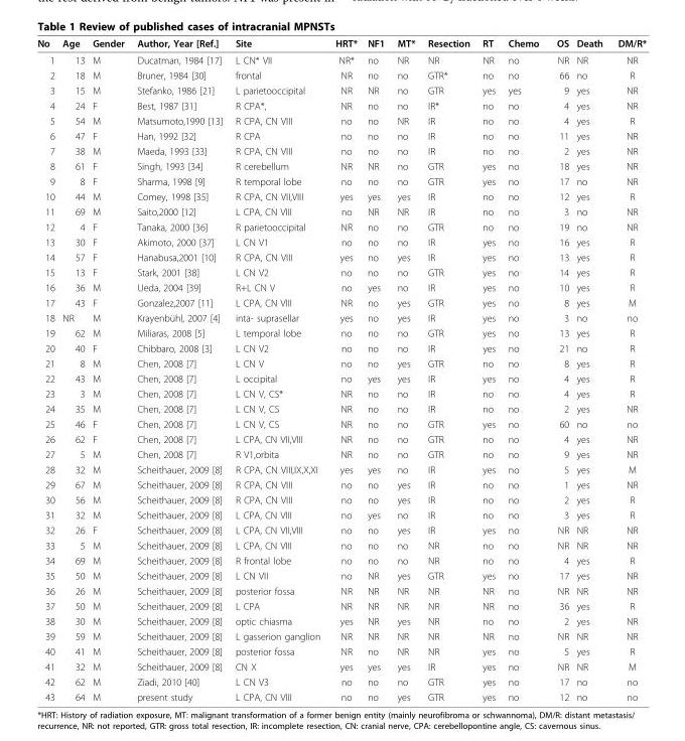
<table><thead><tr><td>No</td><td>Age</td><td>Gender</td><td>Author, Year [Ref.]</td><td>Site</td><td>HRT*</td><td>NF1</td><td>MT*</td><td>Resection</td><td>RT</td><td>Chemo</td><td>OS</td><td>Death</td><td>DM/R*</td></tr></thead><tbody><tr><td>1</td><td>13</td><td>M</td><td>Ducatman, 1984 [17]</td><td>L CN* VII</td><td>NR*</td><td>no</td><td>NR</td><td>NR</td><td>NR</td><td>no</td><td>NR</td><td>NR</td><td>NR</td></tr><tr><td>2</td><td>18</td><td>M</td><td>Bruner, 1984 [30]</td><td>frontal</td><td>NR</td><td>no</td><td>no</td><td>GTR*</td><td>no</td><td>no</td><td>66</td><td>no</td><td>R</td></tr><tr><td>3</td><td>15</td><td>M</td><td>Stefanko, 1986 [21]</td><td>L parietooccipital</td><td>NR</td><td>NR</td><td>no</td><td>GTR</td><td>yes</td><td>yes</td><td>9</td><td>yes</td><td>NR</td></tr><tr><td>4</td><td>24</td><td>F</td><td>Best, 1987 [31]</td><td>R CPA*,</td><td>NR</td><td>no</td><td>no</td><td>IR*</td><td>no</td><td>no</td><td>4</td><td>yes</td><td>NR</td></tr><tr><td>5</td><td>54</td><td>M</td><td>Matsumoto,1990 [13]</td><td>R CPA, CN VIII</td><td>no</td><td>no</td><td>NR</td><td>IR</td><td>no</td><td>no</td><td>4</td><td>yes</td><td>R</td></tr><tr><td>6</td><td>47</td><td>F</td><td>Han, 1992 [32]</td><td>R CPA</td><td>no</td><td>no</td><td>no</td><td>IR</td><td>no</td><td>no</td><td>11</td><td>yes</td><td>NR</td></tr><tr><td>7</td><td>38</td><td>M</td><td>Maeda, 1993 [33]</td><td>R CPA, CN VIII</td><td>no</td><td>no</td><td>no</td><td>IR</td><td>no</td><td>no</td><td>2</td><td>yes</td><td>NR</td></tr><tr><td>8</td><td>61</td><td>F</td><td>Singh, 1993 [34]</td><td>R cerebellum</td><td>NR</td><td>NR</td><td>no</td><td>GTR</td><td>yes</td><td>no</td><td>18</td><td>yes</td><td>NR</td></tr><tr><td>9</td><td>8</td><td>F</td><td>Sharma, 1998 [9]</td><td>R temporal lobe</td><td>no</td><td>no</td><td>no</td><td>GTR</td><td>yes</td><td>no</td><td>17</td><td>no</td><td>NR</td></tr><tr><td>10</td><td>44</td><td>M</td><td>Comey, 1998 [35]</td><td>R CPA, CN VII,VIII</td><td>yes</td><td>yes</td><td>yes</td><td>IR</td><td>no</td><td>no</td><td>12</td><td>yes</td><td>R</td></tr><tr><td>11</td><td>69</td><td>M</td><td>Saito,2000 [12]</td><td>L CPA, CN VIII</td><td>no</td><td>NR</td><td>NR</td><td>IR</td><td>no</td><td>no</td><td>3</td><td>no</td><td>NR</td></tr><tr><td>12</td><td>4</td><td>F</td><td>Tanaka, 2000 [36]</td><td>R parietooccipital</td><td>NR</td><td>no</td><td>no</td><td>GTR</td><td>no</td><td>no</td><td>19</td><td>no</td><td>NR</td></tr><tr><td>13</td><td>30</td><td>F</td><td>Akimoto, 2000 [37]</td><td>L CN V1</td><td>no</td><td>no</td><td>no</td><td>IR</td><td>yes</td><td>no</td><td>16</td><td>yes</td><td>R</td></tr><tr><td>14</td><td>57</td><td>F</td><td>Hanabusa,2001 [10]</td><td>R CPA, CN VIII</td><td>yes</td><td>no</td><td>yes</td><td>IR</td><td>yes</td><td>no</td><td>13</td><td>yes</td><td>R</td></tr><tr><td>15</td><td>13</td><td>F</td><td>Stark, 2001 [38]</td><td>L CN V2</td><td>no</td><td>no</td><td>no</td><td>GTR</td><td>yes</td><td>no</td><td>14</td><td>yes</td><td>R</td></tr><tr><td>16</td><td>36</td><td>M</td><td>Ueda, 2004 [39]</td><td>R+L CN V</td><td>no</td><td>yes</td><td>no</td><td>IR</td><td>yes</td><td>no</td><td>10</td><td>yes</td><td>R</td></tr><tr><td>17</td><td>43</td><td>F</td><td>Gonzalez,2007 [11]</td><td>L CPA, CN VIII</td><td>NR</td><td>no</td><td>yes</td><td>GTR</td><td>yes</td><td>no</td><td>8</td><td>yes</td><td>M</td></tr><tr><td>18</td><td>NR</td><td>M</td><td>Krayenbühl, 2007 [4]</td><td>inta- suprasellar</td><td>yes</td><td>no</td><td>yes</td><td>IR</td><td>yes</td><td>no</td><td>3</td><td>no</td><td>no</td></tr><tr><td>19</td><td>62</td><td>M</td><td>Miliaras, 2008 [5]</td><td>L temporal lobe</td><td>no</td><td>no</td><td>no</td><td>GTR</td><td>yes</td><td>no</td><td>13</td><td>yes</td><td>R</td></tr><tr><td>20</td><td>40</td><td>F</td><td>Chibbaro, 2008 [3]</td><td>L CN V2</td><td>no</td><td>no</td><td>no</td><td>IR</td><td>yes</td><td>no</td><td>21</td><td>no</td><td>R</td></tr><tr><td>21</td><td>8</td><td>M</td><td>Chen, 2008 [7]</td><td>L CN V</td><td>no</td><td>no</td><td>yes</td><td>GTR</td><td>no</td><td>no</td><td>8</td><td>yes</td><td>R</td></tr><tr><td>22</td><td>43</td><td>M</td><td>Chen, 2008 [7]</td><td>L occipital</td><td>no</td><td>yes</td><td>yes</td><td>IR</td><td>yes</td><td>no</td><td>4</td><td>yes</td><td>R</td></tr><tr><td>23</td><td>3</td><td>M</td><td>Chen, 2008 [7]</td><td>L CN V, CS*</td><td>NR</td><td>no</td><td>no</td><td>IR</td><td>no</td><td>no</td><td>4</td><td>yes</td><td>R</td></tr><tr><td>24</td><td>35</td><td>M</td><td>Chen, 2008 [7]</td><td>L CN V, CS</td><td>NR</td><td>no</td><td>no</td><td>IR</td><td>no</td><td>no</td><td>2</td><td>yes</td><td>NR</td></tr><tr><td>25</td><td>46</td><td>F</td><td>Chen, 2008 [7]</td><td>L CN V, CS</td><td>NR</td><td>no</td><td>no</td><td>GTR</td><td>yes</td><td>no</td><td>60</td><td>no</td><td>no</td></tr><tr><td>26</td><td>62</td><td>F</td><td>Chen, 2008 [7]</td><td>L CPA, CN VII,VIII</td><td>NR</td><td>no</td><td>no</td><td>GTR</td><td>no</td><td>no</td><td>4</td><td>yes</td><td>NR</td></tr><tr><td>27</td><td>5</td><td>M</td><td>Chen, 2008 [7]</td><td>R V1,orbita</td><td>NR</td><td>no</td><td>no</td><td>GTR</td><td>no</td><td>no</td><td>9</td><td>yes</td><td>NR</td></tr><tr><td>28</td><td>32</td><td>M</td><td>Scheithauer, 2009 [8]</td><td>R CPA, CN VIII,IX,X,XI</td><td>yes</td><td>yes</td><td>no</td><td>IR</td><td>yes</td><td>no</td><td>5</td><td>yes</td><td>M</td></tr><tr><td>29</td><td>67</td><td>M</td><td>Scheithauer, 2009 [8]</td><td>R CPA, CN VIII</td><td>no</td><td>no</td><td>yes</td><td>IR</td><td>no</td><td>no</td><td>1</td><td>yes</td><td>NR</td></tr><tr><td>30</td><td>56</td><td>M</td><td>Scheithauer, 2009 [8]</td><td>R CPA, CN VIII</td><td>no</td><td>no</td><td>yes</td><td>IR</td><td>no</td><td>no</td><td>2</td><td>yes</td><td>R</td></tr><tr><td>31</td><td>32</td><td>M</td><td>Scheithauer, 2009 [8]</td><td>L CPA, CN VIII</td><td>no</td><td>yes</td><td>no</td><td>IR</td><td>no</td><td>no</td><td>3</td><td>yes</td><td>R</td></tr><tr><td>32</td><td>26</td><td>F</td><td>Scheithauer, 2009 [8]</td><td>L CPA, CN VII,VIII</td><td>no</td><td>no</td><td>yes</td><td>IR</td><td>yes</td><td>no</td><td>NR</td><td>NR</td><td>NR</td></tr><tr><td>33</td><td>5</td><td>M</td><td>Scheithauer, 2009 [8]</td><td>L CPA, CN VIII</td><td>no</td><td>no</td><td>no</td><td>NR</td><td>no</td><td>no</td><td>NR</td><td>NR</td><td>NR</td></tr><tr><td>34</td><td>69</td><td>M</td><td>Scheithauer, 2009 [8]</td><td>R frontal lobe</td><td>no</td><td>no</td><td>no</td><td>NR</td><td>no</td><td>no</td><td>4</td><td>yes</td><td>R</td></tr><tr><td>35</td><td>50</td><td>M</td><td>Scheithauer, 2009 [8]</td><td>L CN VII</td><td>no</td><td>NR</td><td>yes</td><td>GTR</td><td>yes</td><td>no</td><td>17</td><td>yes</td><td>NR</td></tr><tr><td>36</td><td>26</td><td>M</td><td>Scheithauer, 2009 [8]</td><td>posterior fossa</td><td>NR</td><td>NR</td><td>NR</td><td>NR</td><td>NR</td><td>no</td><td>NR</td><td>NR</td><td>NR</td></tr><tr><td>37</td><td>50</td><td>M</td><td>Scheithauer, 2009 [8]</td><td>L CPA</td><td>NR</td><td>NR</td><td>NR</td><td>NR</td><td>NR</td><td>no</td><td>36</td><td>yes</td><td>R</td></tr><tr><td>38</td><td>30</td><td>M</td><td>Scheithauer, 2009 [8]</td><td>optic chiasma</td><td>yes</td><td>NR</td><td>yes</td><td>NR</td><td>no</td><td>no</td><td>2</td><td>yes</td><td>NR</td></tr><tr><td>39</td><td>59</td><td>M</td><td>Scheithauer, 2009 [8]</td><td>L gasserion ganglion</td><td>NR</td><td>NR</td><td>NR</td><td>NR</td><td>NR</td><td>no</td><td>NR</td><td>NR</td><td>NR</td></tr><tr><td>40</td><td>41</td><td>M</td><td>Scheithauer, 2009 [8]</td><td>posterior fossa</td><td>NR</td><td>no</td><td>NR</td><td>NR</td><td>yes</td><td>no</td><td>5</td><td>yes</td><td>R</td></tr><tr><td>41</td><td>32</td><td>M</td><td>Scheithauer, 2009 [8]</td><td>CN X</td><td>yes</td><td>yes</td><td>yes</td><td>IR</td><td>yes</td><td>no</td><td>NR</td><td>NR</td><td>M</td></tr><tr><td>42</td><td>62</td><td>M</td><td>Ziadi, 2010 [40]</td><td>L CN V3</td><td>no</td><td>no</td><td>no</td><td>GTR</td><td>yes</td><td>no</td><td>17</td><td>no</td><td>no</td></tr><tr><td>43</td><td>64</td><td>M</td><td>present study</td><td>L CPA, CN VIII</td><td>no</td><td>no</td><td>yes</td><td>GTR</td><td>yes</td><td>no</td><td>12</td><td>no</td><td>no</td></tr></tbody></table>